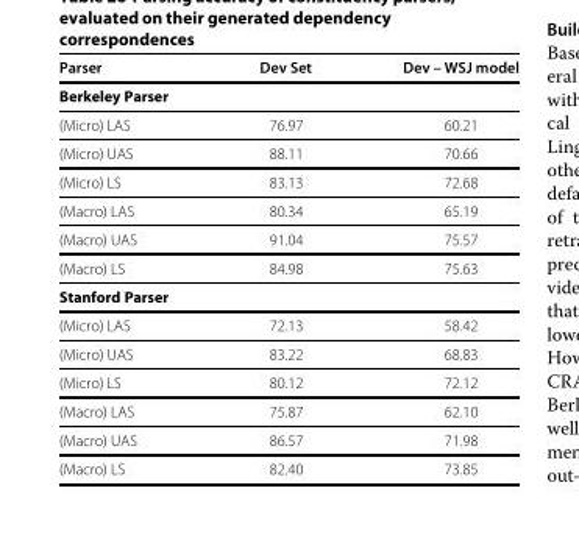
<table><thead><tr><td>Parser</td><td>Dev Set</td><td>Dev – WSJ model</td></tr></thead><tbody><tr><td colspan="3">Berkeley Parser</td></tr><tr><td>(Micro) LAS</td><td>76.97</td><td>60.21</td></tr><tr><td>(Micro) UAS</td><td>88.11</td><td>70.66</td></tr><tr><td>(Micro) LS</td><td>83.13</td><td>72.68</td></tr><tr><td>(Macro) LAS</td><td>80.34</td><td>65.19</td></tr><tr><td>(Macro) UAS</td><td>91.04</td><td>75.57</td></tr><tr><td>(Macro) LS</td><td>84.98</td><td>75.63</td></tr><tr><td colspan="3">Stanford Parser</td></tr><tr><td>(Micro) LAS</td><td>72.13</td><td>58.42</td></tr><tr><td>(Micro) UAS</td><td>83.22</td><td>68.83</td></tr><tr><td>(Micro) LS</td><td>80.12</td><td>72.12</td></tr><tr><td>(Macro) LAS</td><td>75.87</td><td>62.10</td></tr><tr><td>(Macro) UAS</td><td>86.57</td><td>71.98</td></tr><tr><td>(Macro) LS</td><td>82.40</td><td>73.85</td></tr></tbody></table>